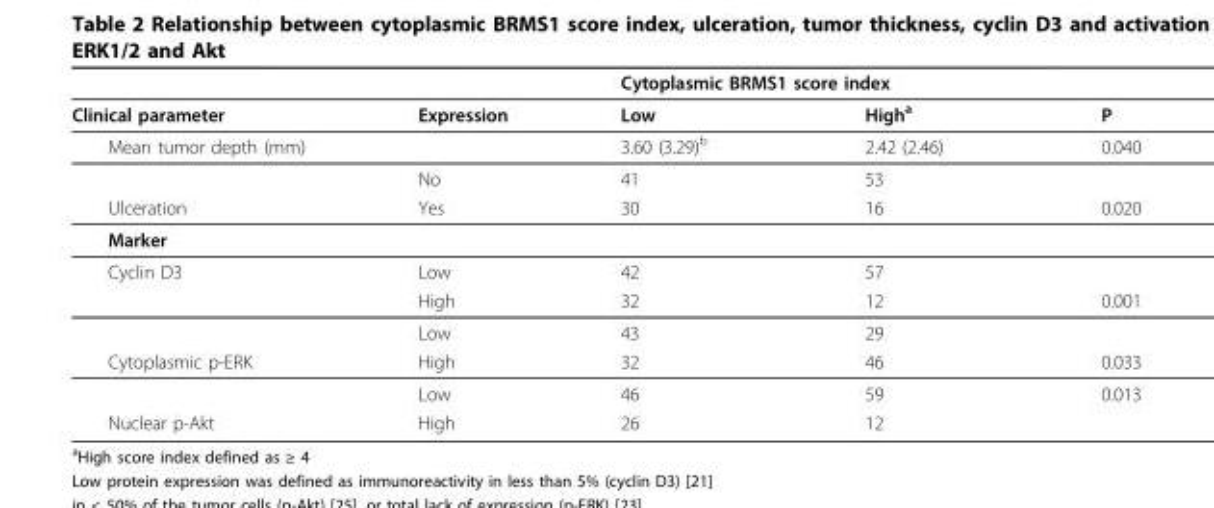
<table><thead><tr><td rowspan="2">Clinical parameter</td><td rowspan="2">Expression</td><td colspan="2">Cytoplasmic BRMS1 score index</td><td rowspan="2">P</td></tr><tr><td>Low</td><td>High<sup>a</sup></td></tr></thead><tbody><tr><td rowspan="2">Mean tumor depth (mm)</td><td></td><td>3.60 (3.29)<sup>b</sup></td><td>2.42 (2.46)</td><td>0.040</td></tr><tr><td>No</td><td>41</td><td>53</td><td></td></tr><tr><td>Ulceration</td><td>Yes</td><td>30</td><td>16</td><td>0.020</td></tr><tr><td colspan="5">Marker</td></tr><tr><td rowspan="3">Cyclin D3</td><td>Low</td><td>42</td><td>57</td><td></td></tr><tr><td>High</td><td>32</td><td>12</td><td>0.001</td></tr><tr><td>Low</td><td>43</td><td>29</td><td></td></tr><tr><td rowspan="2">Cytoplasmic p-ERK</td><td>High</td><td>32</td><td>46</td><td>0.033</td></tr><tr><td>Low</td><td>46</td><td>59</td><td>0.013</td></tr><tr><td>Nuclear p-Akt</td><td>High</td><td>26</td><td>12</td><td></td></tr></tbody></table>